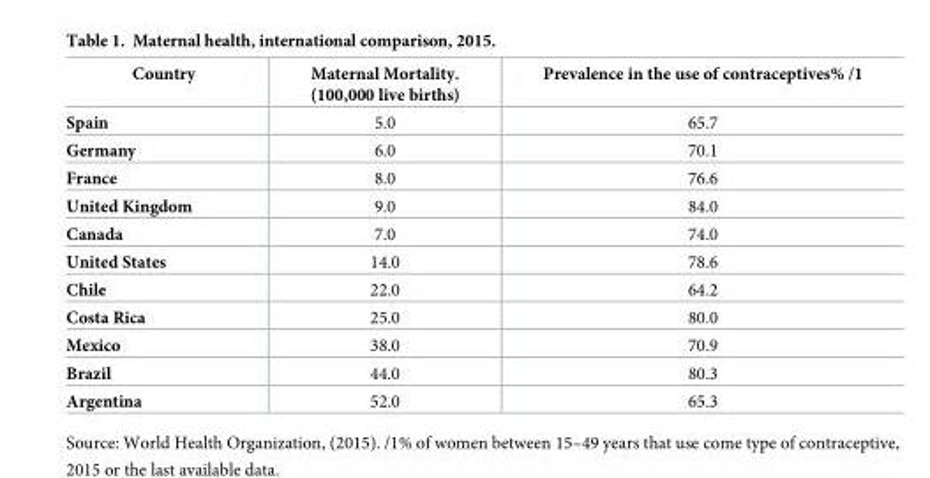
<table><thead><tr><td>Country</td><td>Maternal Mortality. (100,000 live births)</td><td>Prevalence in the use of contraceptives% /1</td></tr></thead><tbody><tr><td>Spain</td><td>5.0</td><td>65.7</td></tr><tr><td>Germany</td><td>6.0</td><td>70.1</td></tr><tr><td>France</td><td>8.0</td><td>76.6</td></tr><tr><td>United Kingdom</td><td>9.0</td><td>84.0</td></tr><tr><td>Canada</td><td>7.0</td><td>74.0</td></tr><tr><td>United States</td><td>14.0</td><td>78.6</td></tr><tr><td>Chile</td><td>22.0</td><td>64.2</td></tr><tr><td>Costa Rica</td><td>25.0</td><td>80.0</td></tr><tr><td>Mexico</td><td>38.0</td><td>70.9</td></tr><tr><td>Brazil</td><td>44.0</td><td>80.3</td></tr><tr><td>Argentina</td><td>52.0</td><td>65.3</td></tr></tbody></table>